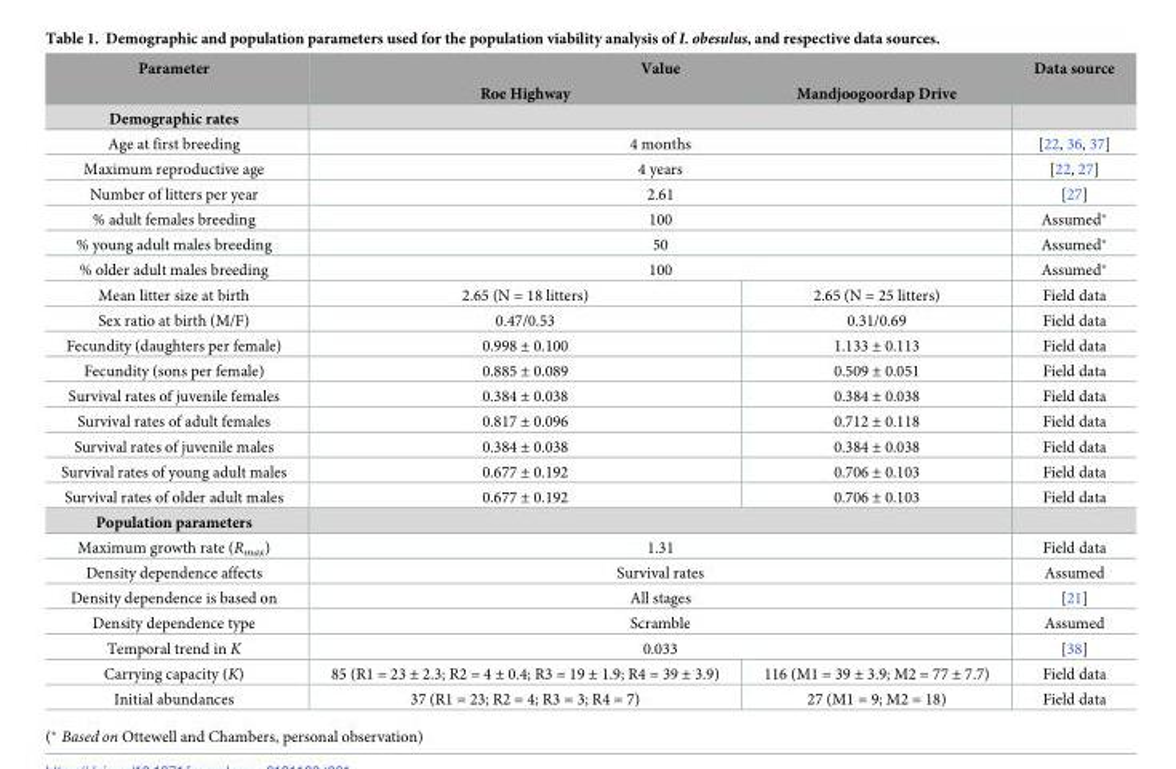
<table><thead><tr><td rowspan="2">Parameter</td><td colspan="2">Value</td><td rowspan="2">Data source</td></tr><tr><td>Roe Highway</td><td>Mandjoogoordap Drive</td></tr></thead><tbody><tr><td colspan="4">Demographic rates</td></tr><tr><td>Age at first breeding</td><td colspan="2">4 months</td><td>[22, 36, 37]</td></tr><tr><td>Maximum reproductive age</td><td colspan="2">4 years</td><td>[22, 27]</td></tr><tr><td>Number of litters per year</td><td colspan="2">2.61</td><td>[27]</td></tr><tr><td>% adult females breeding</td><td colspan="2">100</td><td>Assumed*</td></tr><tr><td>% young adult males breeding</td><td colspan="2">50</td><td>Assumed*</td></tr><tr><td>% older adult males breeding</td><td colspan="2">100</td><td>Assumed*</td></tr><tr><td>Mean litter size at birth</td><td>2.65 (N = 18 litters)</td><td>2.65 (N = 25 litters)</td><td>Field data</td></tr><tr><td>Sex ratio at birth (M/F)</td><td>0.47/0.53</td><td>0.31/0.69</td><td>Field data</td></tr><tr><td>Fecundity (daughters per female)</td><td>0.998 ± 0.100</td><td>1.133 ± 0.113</td><td>Field data</td></tr><tr><td>Fecundity (sons per female)</td><td>0.885 ± 0.089</td><td>0.509 ± 0.051</td><td>Field data</td></tr><tr><td>Survival rates of juvenile females</td><td>0.384 ± 0.038</td><td>0.384 ± 0.038</td><td>Field data</td></tr><tr><td>Survival rates of adult females</td><td>0.817 ± 0.096</td><td>0.712 ± 0.118</td><td>Field data</td></tr><tr><td>Survival rates of juvenile males</td><td>0.384 ± 0.038</td><td>0.384 ± 0.038</td><td>Field data</td></tr><tr><td>Survival rates of young adult males</td><td>0.677 ± 0.192</td><td>0.706 ± 0.103</td><td>Field data</td></tr><tr><td>Survival rates of older adult males</td><td>0.677 ± 0.192</td><td>0.706 ± 0.103</td><td>Field data</td></tr><tr><td colspan="4">Population parameters</td></tr><tr><td>Maximum growth rate (R<sub>max</sub>)</td><td colspan="2">1.31</td><td>Field data</td></tr><tr><td>Density dependence affects</td><td colspan="2">Survival rates</td><td>Assumed</td></tr><tr><td>Density dependence is based on</td><td colspan="2">All stages</td><td>[21]</td></tr><tr><td>Density dependence type</td><td colspan="2">Scramble</td><td>Assumed</td></tr><tr><td>Temporal trend in K</td><td colspan="2">0.033</td><td>[38]</td></tr><tr><td>Carrying capacity (K)</td><td>85 (R1 = 23 ± 2.3; R2 = 4 ± 0.4; R3 = 19 ± 1.9; R4 = 39 ± 3.9)</td><td>116 (M1 = 39 ± 3.9; M2 = 77 ± 7.7)</td><td>Field data</td></tr><tr><td>Initial abundances</td><td>37 (R1 = 23; R2 = 4; R3 = 3; R4 = 7)</td><td>27 (M1 = 9; M2 = 18)</td><td>Field data</td></tr></tbody></table>